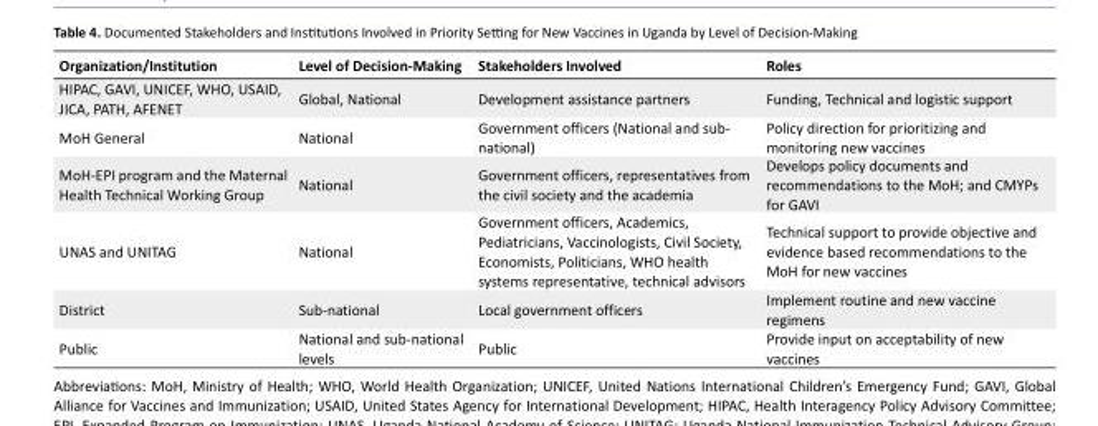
<table><tbody><tr><td>Organization/Institution</td><td>Level of Decision-Making</td><td>Stakeholders Involved</td><td>Roles</td></tr><tr><td>HIPAC, GAVI, UNICEF, WHO, USAID, JICA, PATH, AFENET</td><td>Global, National</td><td>Development assistance partners</td><td>Funding, Technical and logistic support</td></tr><tr><td>MoH General</td><td>National</td><td>Government officers (National and sub- national)</td><td>Policy direction for prioritizing and monitoring new vaccines</td></tr><tr><td>MoH-EPI program and the Maternal Health Technical Working Group</td><td>National</td><td>Government officers, representatives from the civil society and the academia</td><td>Develops policy documents and recommendations to the MoH; and CMYPs for GAVI</td></tr><tr><td>UNAS and UNITAG</td><td>National</td><td>Government officers, Academics, Pediatricians, Vaccinologists, Civil Society, Economists, Politicians, WHO health systems representative, technical advisors</td><td>Technical support to provide objective and evidence based recommendations to the MoH for new vaccines</td></tr><tr><td>District</td><td>Sub-national</td><td>Local government officers</td><td>Implement routine and new vaccine regimens</td></tr><tr><td>Public</td><td>National and sub-national levels</td><td>Public</td><td>Provide input on acceptability of new vaccines</td></tr></tbody></table>